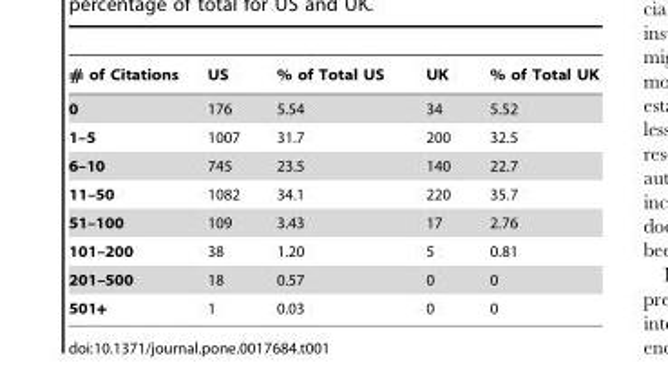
<table><thead><tr><td># of Citations</td><td>US</td><td>% of Total US</td><td>UK</td><td>% of Total UK</td></tr></thead><tbody><tr><td>0</td><td>176</td><td>5.54</td><td>34</td><td>5.52</td></tr><tr><td>1–5</td><td>1007</td><td>31.7</td><td>200</td><td>32.5</td></tr><tr><td>6–10</td><td>745</td><td>23.5</td><td>140</td><td>22.7</td></tr><tr><td>11–50</td><td>1082</td><td>34.1</td><td>220</td><td>35.7</td></tr><tr><td>51–100</td><td>109</td><td>3.43</td><td>17</td><td>2.76</td></tr><tr><td>101–200</td><td>38</td><td>1.20</td><td>5</td><td>0.81</td></tr><tr><td>201–500</td><td>18</td><td>0.57</td><td>0</td><td>0</td></tr><tr><td>501+</td><td>1</td><td>0.03</td><td>0</td><td>0</td></tr></tbody></table>